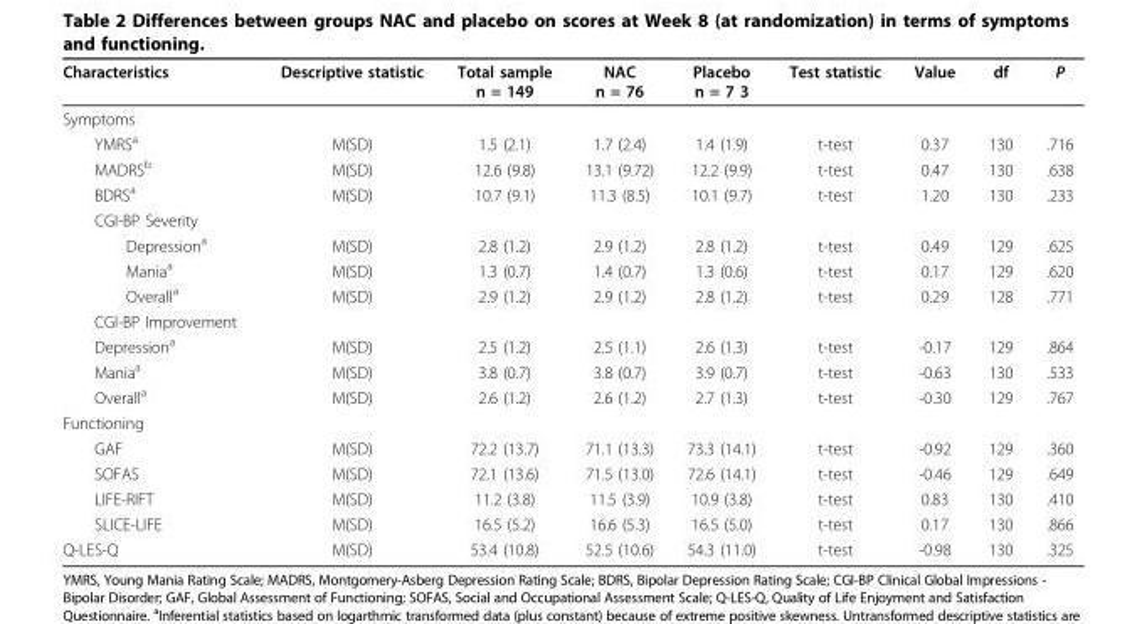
<table><thead><tr><td>Characteristics</td><td>Descriptive statistic</td><td>Total sample n = 149</td><td>NAC n = 76</td><td>Placebo n = 7 3</td><td>Test statistic</td><td>Value</td><td>df</td><td>P</td></tr></thead><tbody><tr><td colspan="9">Symptoms</td></tr><tr><td>YMRS<sup>a</sup></td><td>M(SD)</td><td>1.5 (2.1)</td><td>1.7 (2.4)</td><td>1.4 (1.9)</td><td>t-test</td><td>0.37</td><td>130</td><td>.716</td></tr><tr><td>MADRS<sup>b</sup></td><td>M(SD)</td><td>12.6 (9.8)</td><td>13.1 (9.72)</td><td>12.2 (9.9)</td><td>t-test</td><td>0.47</td><td>130</td><td>.638</td></tr><tr><td>BDRS<sup>a</sup></td><td>M(SD)</td><td>10.7 (9.1)</td><td>11.3 (8.5)</td><td>10.1 (9.7)</td><td>t-test</td><td>1.20</td><td>130</td><td>.233</td></tr><tr><td colspan="9">CGI-BP Severity</td></tr><tr><td>Depression<sup>a</sup></td><td>M(SD)</td><td>2.8 (1.2)</td><td>2.9 (1.2)</td><td>2.8 (1.2)</td><td>t-test</td><td>0.49</td><td>129</td><td>.625</td></tr><tr><td>Mania<sup>a</sup></td><td>M(SD)</td><td>1.3 (0.7)</td><td>1.4 (0.7)</td><td>1.3 (0.6)</td><td>t-test</td><td>0.17</td><td>129</td><td>.620</td></tr><tr><td>Overall<sup>a</sup></td><td>M(SD)</td><td>2.9 (1.2)</td><td>2.9 (1.2)</td><td>2.8 (1.2)</td><td>t-test</td><td>0.29</td><td>128</td><td>.771</td></tr><tr><td colspan="9">CGI-BP Improvement</td></tr><tr><td>Depression<sup>a</sup></td><td>M(SD)</td><td>2.5 (1.2)</td><td>2.5 (1.1)</td><td>2.6 (1.3)</td><td>t-test</td><td>-0.17</td><td>129</td><td>.864</td></tr><tr><td>Mania<sup>a</sup></td><td>M(SD)</td><td>3.8 (0.7)</td><td>3.8 (0.7)</td><td>3.9 (0.7)</td><td>t-test</td><td>-0.63</td><td>130</td><td>.533</td></tr><tr><td>Overall<sup>a</sup></td><td>M(SD)</td><td>2.6 (1.2)</td><td>2.6 (1.2)</td><td>2.7 (1.3)</td><td>t-test</td><td>-0.30</td><td>129</td><td>.767</td></tr><tr><td colspan="9">Functioning</td></tr><tr><td>GAF</td><td>M(SD)</td><td>72.2 (13.7)</td><td>71.1 (13.3)</td><td>73.3 (14.1)</td><td>t-test</td><td>-0.92</td><td>129</td><td>.360</td></tr><tr><td>SOFAS</td><td>M(SD)</td><td>72.1 (13.6)</td><td>71.5 (13.0)</td><td>72.6 (14.1)</td><td>t-test</td><td>-0.46</td><td>129</td><td>.649</td></tr><tr><td>LIFE-RIFT</td><td>M(SD)</td><td>11.2 (3.8)</td><td>11.5 (3.9)</td><td>10.9 (3.8)</td><td>t-test</td><td>0.83</td><td>130</td><td>.410</td></tr><tr><td>SLICE-LIFE</td><td>M(SD)</td><td>16.5 (5.2)</td><td>16.6 (5.3)</td><td>16.5 (5.0)</td><td>t-test</td><td>0.17</td><td>130</td><td>.866</td></tr><tr><td>Q-LES-Q</td><td>M(SD)</td><td>53.4 (10.8)</td><td>52.5 (10.6)</td><td>54.3 (11.0)</td><td>t-test</td><td>-0.98</td><td>130</td><td>.325</td></tr></tbody></table>